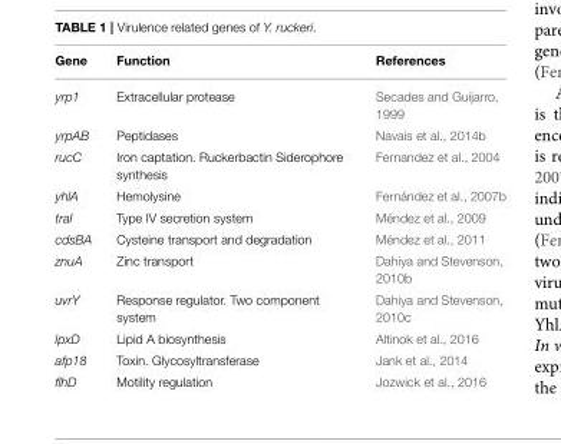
<table><thead><tr><td>Gene</td><td>Function</td><td>References</td></tr></thead><tbody><tr><td>yrp1</td><td>Extracellular protease</td><td>Secades and Guijarro, 1999</td></tr><tr><td>yrpAB</td><td>Peptidases</td><td>Navais et al., 2014b</td></tr><tr><td>rucC</td><td>Iron captation. Ruckerbactin Siderophore synthesis</td><td>Fernandez et al., 2004</td></tr><tr><td>yhlA</td><td>Hemolysine</td><td>Fernández et al., 2007b</td></tr><tr><td>traI</td><td>Type IV secretion system</td><td>Méndez et al., 2009</td></tr><tr><td>cdsBA</td><td>Cysteine transport and degradation</td><td>Méndez et al., 2011</td></tr><tr><td>znuA</td><td>Zinc transport</td><td>Dahiya and Stevenson, 2010b</td></tr><tr><td>uvrY</td><td>Response regulator. Two component system</td><td>Dahiya and Stevenson, 2010c</td></tr><tr><td>lpxD</td><td>Lipid A biosynthesis</td><td>Altinok et al., 2016</td></tr><tr><td>afp18</td><td>Toxin. Glycosyltransferase</td><td>Jank et al., 2014</td></tr><tr><td>flhD</td><td>Motility regulation</td><td>Jozwick et al., 2016</td></tr></tbody></table>